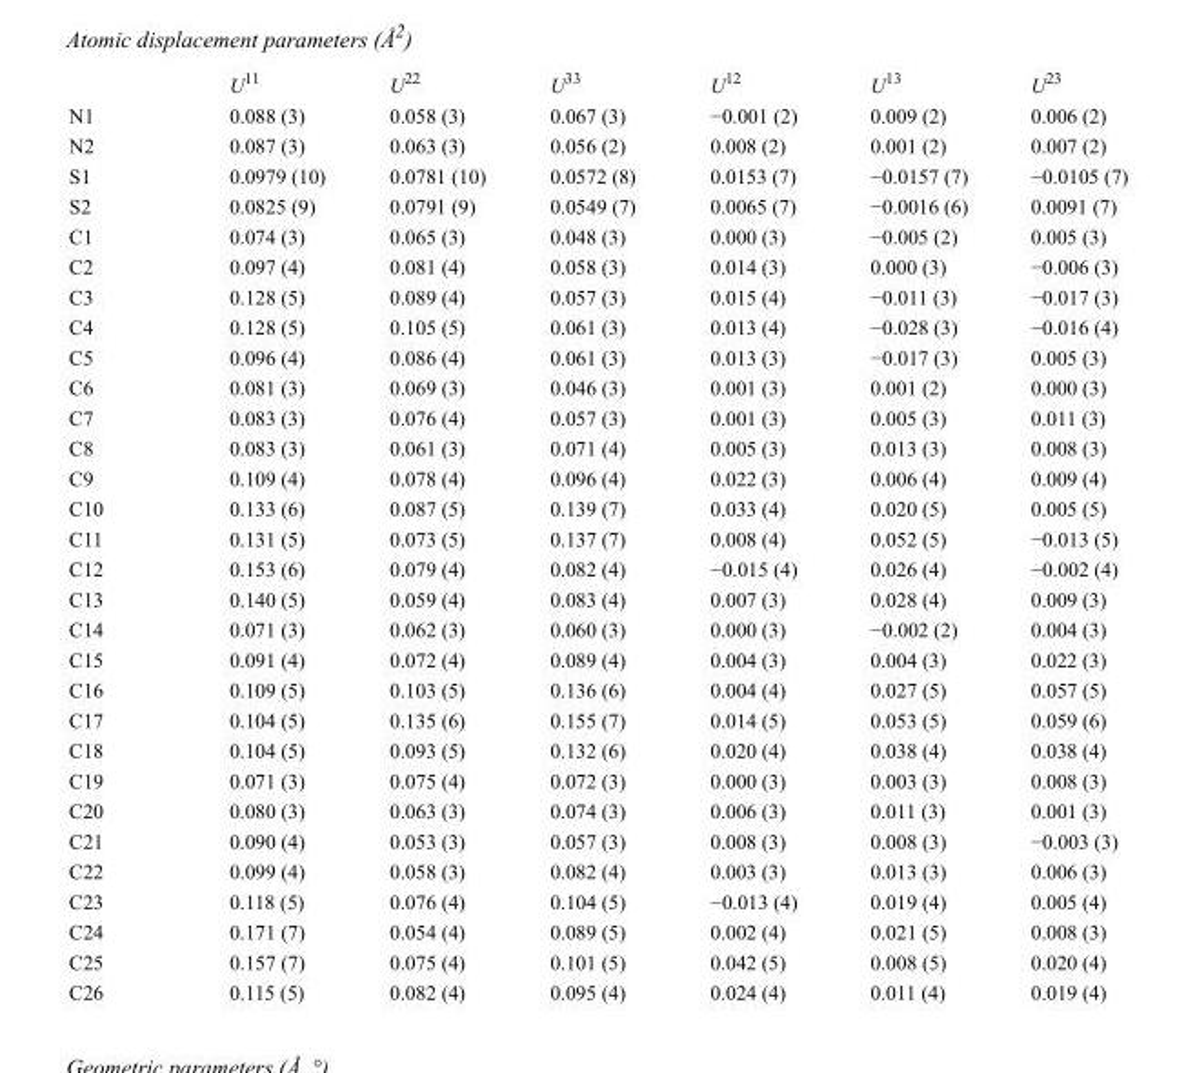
<table><thead><tr><td></td><td>U<sup>11</sup></td><td>U<sup>22</sup></td><td>U<sup>33</sup></td><td>U<sup>12</sup></td><td>U<sup>13</sup></td><td>U<sup>23</sup></td></tr></thead><tbody><tr><td>N1</td><td>0.088 (3)</td><td>0.058 (3)</td><td>0.067 (3)</td><td>−0.001 (2)</td><td>0.009 (2)</td><td>0.006 (2)</td></tr><tr><td>N2</td><td>0.087 (3)</td><td>0.063 (3)</td><td>0.056 (2)</td><td>0.008 (2)</td><td>0.001 (2)</td><td>0.007 (2)</td></tr><tr><td>S1</td><td>0.0979 (10)</td><td>0.0781 (10)</td><td>0.0572 (8)</td><td>0.0153 (7)</td><td>−0.0157 (7)</td><td>−0.0105 (7)</td></tr><tr><td>S2</td><td>0.0825 (9)</td><td>0.0791 (9)</td><td>0.0549 (7)</td><td>0.0065 (7)</td><td>−0.0016 (6)</td><td>0.0091 (7)</td></tr><tr><td>C1</td><td>0.074 (3)</td><td>0.065 (3)</td><td>0.048 (3)</td><td>0.000 (3)</td><td>−0.005 (2)</td><td>0.005 (3)</td></tr><tr><td>C2</td><td>0.097 (4)</td><td>0.081 (4)</td><td>0.058 (3)</td><td>0.014 (3)</td><td>0.000 (3)</td><td>−0.006 (3)</td></tr><tr><td>C3</td><td>0.128 (5)</td><td>0.089 (4)</td><td>0.057 (3)</td><td>0.015 (4)</td><td>−0.011 (3)</td><td>−0.017 (3)</td></tr><tr><td>C4</td><td>0.128 (5)</td><td>0.105 (5)</td><td>0.061 (3)</td><td>0.013 (4)</td><td>−0.028 (3)</td><td>−0.016 (4)</td></tr><tr><td>C5</td><td>0.096 (4)</td><td>0.086 (4)</td><td>0.061 (3)</td><td>0.013 (3)</td><td>−0.017 (3)</td><td>0.005 (3)</td></tr><tr><td>C6</td><td>0.081 (3)</td><td>0.069 (3)</td><td>0.046 (3)</td><td>0.001 (3)</td><td>0.001 (2)</td><td>0.000 (3)</td></tr><tr><td>C7</td><td>0.083 (3)</td><td>0.076 (4)</td><td>0.057 (3)</td><td>0.001 (3)</td><td>0.005 (3)</td><td>0.011 (3)</td></tr><tr><td>C8</td><td>0.083 (3)</td><td>0.061 (3)</td><td>0.071 (4)</td><td>0.005 (3)</td><td>0.013 (3)</td><td>0.008 (3)</td></tr><tr><td>C9</td><td>0.109 (4)</td><td>0.078 (4)</td><td>0.096 (4)</td><td>0.022 (3)</td><td>0.006 (4)</td><td>0.009 (4)</td></tr><tr><td>C10</td><td>0.133 (6)</td><td>0.087 (5)</td><td>0.139 (7)</td><td>0.033 (4)</td><td>0.020 (5)</td><td>0.005 (5)</td></tr><tr><td>C11</td><td>0.131 (5)</td><td>0.073 (5)</td><td>0.137 (7)</td><td>0.008 (4)</td><td>0.052 (5)</td><td>−0.013 (5)</td></tr><tr><td>C12</td><td>0.153 (6)</td><td>0.079 (4)</td><td>0.082 (4)</td><td>−0.015 (4)</td><td>0.026 (4)</td><td>−0.002 (4)</td></tr><tr><td>C13</td><td>0.140 (5)</td><td>0.059 (4)</td><td>0.083 (4)</td><td>0.007 (3)</td><td>0.028 (4)</td><td>0.009 (3)</td></tr><tr><td>C14</td><td>0.071 (3)</td><td>0.062 (3)</td><td>0.060 (3)</td><td>0.000 (3)</td><td>−0.002 (2)</td><td>0.004 (3)</td></tr><tr><td>C15</td><td>0.091 (4)</td><td>0.072 (4)</td><td>0.089 (4)</td><td>0.004 (3)</td><td>0.004 (3)</td><td>0.022 (3)</td></tr><tr><td>C16</td><td>0.109 (5)</td><td>0.103 (5)</td><td>0.136 (6)</td><td>0.004 (4)</td><td>0.027 (5)</td><td>0.057 (5)</td></tr><tr><td>C17</td><td>0.104 (5)</td><td>0.135 (6)</td><td>0.155 (7)</td><td>0.014 (5)</td><td>0.053 (5)</td><td>0.059 (6)</td></tr><tr><td>C18</td><td>0.104 (5)</td><td>0.093 (5)</td><td>0.132 (6)</td><td>0.020 (4)</td><td>0.038 (4)</td><td>0.038 (4)</td></tr><tr><td>C19</td><td>0.071 (3)</td><td>0.075 (4)</td><td>0.072 (3)</td><td>0.000 (3)</td><td>0.003 (3)</td><td>0.008 (3)</td></tr><tr><td>C20</td><td>0.080 (3)</td><td>0.063 (3)</td><td>0.074 (3)</td><td>0.006 (3)</td><td>0.011 (3)</td><td>0.001 (3)</td></tr><tr><td>C21</td><td>0.090 (4)</td><td>0.053 (3)</td><td>0.057 (3)</td><td>0.008 (3)</td><td>0.008 (3)</td><td>−0.003 (3)</td></tr><tr><td>C22</td><td>0.099 (4)</td><td>0.058 (3)</td><td>0.082 (4)</td><td>0.003 (3)</td><td>0.013 (3)</td><td>0.006 (3)</td></tr><tr><td>C23</td><td>0.118 (5)</td><td>0.076 (4)</td><td>0.104 (5)</td><td>−0.013 (4)</td><td>0.019 (4)</td><td>0.005 (4)</td></tr><tr><td>C24</td><td>0.171 (7)</td><td>0.054 (4)</td><td>0.089 (5)</td><td>0.002 (4)</td><td>0.021 (5)</td><td>0.008 (3)</td></tr><tr><td>C25</td><td>0.157 (7)</td><td>0.075 (4)</td><td>0.101 (5)</td><td>0.042 (5)</td><td>0.008 (5)</td><td>0.020 (4)</td></tr><tr><td>C26</td><td>0.115 (5)</td><td>0.082 (4)</td><td>0.095 (4)</td><td>0.024 (4)</td><td>0.011 (4)</td><td>0.019 (4)</td></tr></tbody></table>